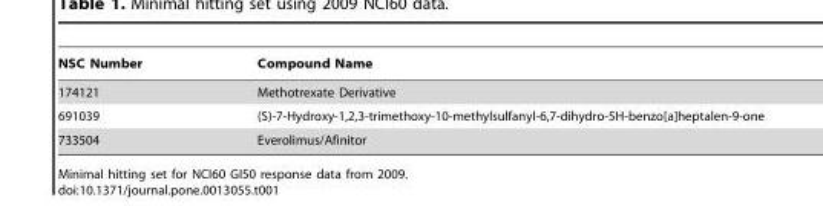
<table><thead><tr><td>NSC Number</td><td>Compound Name</td></tr></thead><tbody><tr><td>174121</td><td>Methotrexate Derivative</td></tr><tr><td>691039</td><td>(S)-7-Hydroxy-1,2,3-trimethoxy-10-methylsulfanyl-6,7-dihydro-5H-benzo[a]heptalen-9-one</td></tr><tr><td>733504</td><td>Everolimus/Afinitor</td></tr></tbody></table>